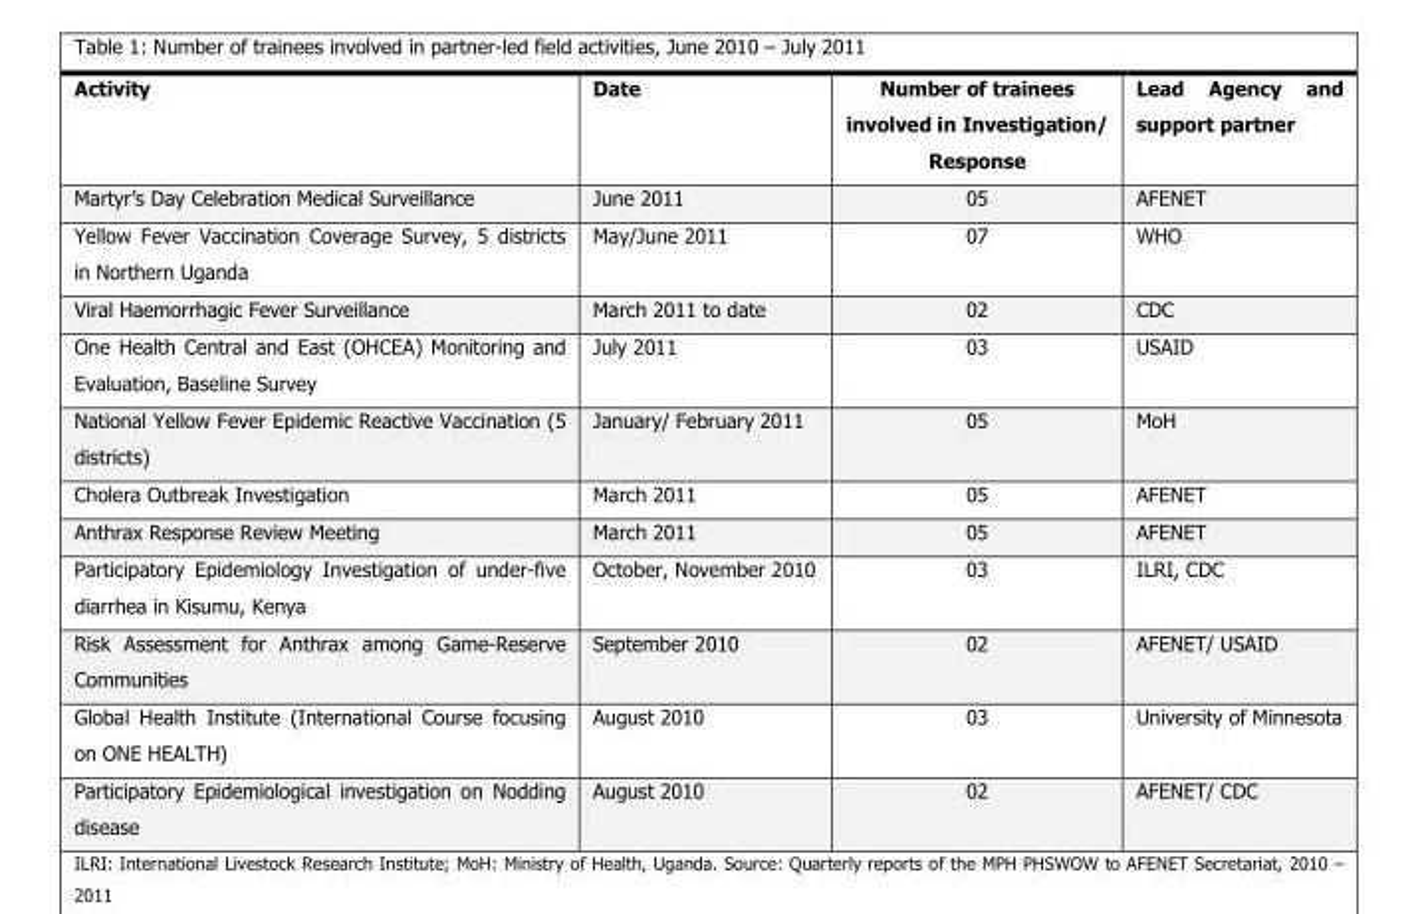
<table><thead><tr><td>Activity</td><td>Date</td><td>Number of trainees involved in Investigation/ Response</td><td>Lead Agency and support partner</td></tr></thead><tbody><tr><td>Martyr’s Day Celebration Medical Surveillance</td><td>June 2011</td><td>05</td><td>AFENET</td></tr><tr><td>Yellow Fever Vaccination Coverage Survey, 5 districts in Northern Uganda</td><td>May/June 2011</td><td>07</td><td>WHO</td></tr><tr><td>Viral Haemorrhagic Fever Surveillance</td><td>March 2011 to date</td><td>02</td><td>CDC</td></tr><tr><td>One Health Central and East (OHCEA) Monitoring and Evaluation, Baseline Survey</td><td>July 2011</td><td>03</td><td>USAID</td></tr><tr><td>National Yellow Fever Epidemic Reactive Vaccination (5 districts)</td><td>January/ February 2011</td><td>05</td><td>MoH</td></tr><tr><td>Cholera Outbreak Investigation</td><td>March 2011</td><td>05</td><td>AFENET</td></tr><tr><td>Anthrax Response Review Meeting</td><td>March 2011</td><td>05</td><td>AFENET</td></tr><tr><td>Participatory Epidemiology Investigation of under-five diarrhea in Kisumu, Kenya</td><td>October, November 2010</td><td>03</td><td>ILRI, CDC</td></tr><tr><td>Risk Assessment for Anthrax among Game-Reserve Communities</td><td>September 2010</td><td>02</td><td>AFENET/ USAID</td></tr><tr><td>Global Health Institute (International Course focusing on ONE HEALTH)</td><td>August 2010</td><td>03</td><td>University of Minnesota</td></tr><tr><td>Participatory Epidemiological investigation on Nodding disease</td><td>August 2010</td><td>02</td><td>AFENET/ CDC</td></tr></tbody></table>